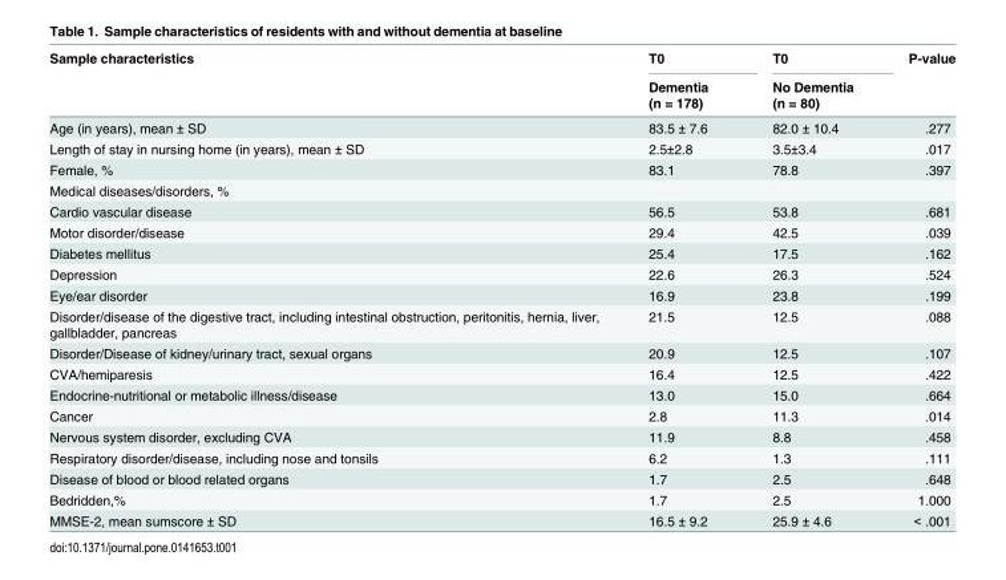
<table><thead><tr><td rowspan="2">Sample characteristics</td><td rowspan="2">T0 Dementia (n = 178)</td><td rowspan="2">T0 No Dementia (n = 80)</td><td rowspan="2">P-value</td></tr><tr></tr></thead><tbody><tr><td>Age (in years), mean ± SD</td><td>83.5 ± 7.6</td><td>82.0 ± 10.4</td><td>.277</td></tr><tr><td>Length of stay in nursing home (in years), mean ± SD</td><td>2.5±2.8</td><td>3.5±3.4</td><td>.017</td></tr><tr><td>Female, %</td><td>83.1</td><td>78.8</td><td>.397</td></tr><tr><td colspan="4">Medical diseases/disorders, %</td></tr><tr><td>Cardio vascular disease</td><td>56.5</td><td>53.8</td><td>.681</td></tr><tr><td>Motor disorder/disease</td><td>29.4</td><td>42.5</td><td>.039</td></tr><tr><td>Diabetes mellitus</td><td>25.4</td><td>17.5</td><td>.162</td></tr><tr><td>Depression</td><td>22.6</td><td>26.3</td><td>.524</td></tr><tr><td>Eye/ear disorder</td><td>16.9</td><td>23.8</td><td>.199</td></tr><tr><td>Disorder/disease of the digestive tract, including intestinal obstruction, peritonitis, hernia, liver, gallbladder, pancreas</td><td>21.5</td><td>12.5</td><td>.088</td></tr><tr><td>Disorder/Disease of kidney/urinary tract, sexual organs</td><td>20.9</td><td>12.5</td><td>.107</td></tr><tr><td>CVA/hemiparesis</td><td>16.4</td><td>12.5</td><td>.422</td></tr><tr><td>Endocrine-nutritional or metabolic illness/disease</td><td>13.0</td><td>15.0</td><td>.664</td></tr><tr><td>Cancer</td><td>2.8</td><td>11.3</td><td>.014</td></tr><tr><td>Nervous system disorder, excluding CVA</td><td>11.9</td><td>8.8</td><td>.458</td></tr><tr><td>Respiratory disorder/disease, including nose and tonsils</td><td>6.2</td><td>1.3</td><td>.111</td></tr><tr><td>Disease of blood or blood related organs</td><td>1.7</td><td>2.5</td><td>.648</td></tr><tr><td>Bedridden,%</td><td>1.7</td><td>2.5</td><td>1.000</td></tr><tr><td>MMSE-2, mean sumscore ± SD</td><td>16.5 ± 9.2</td><td>25.9 ± 4.6</td><td>&lt; .001</td></tr></tbody></table>